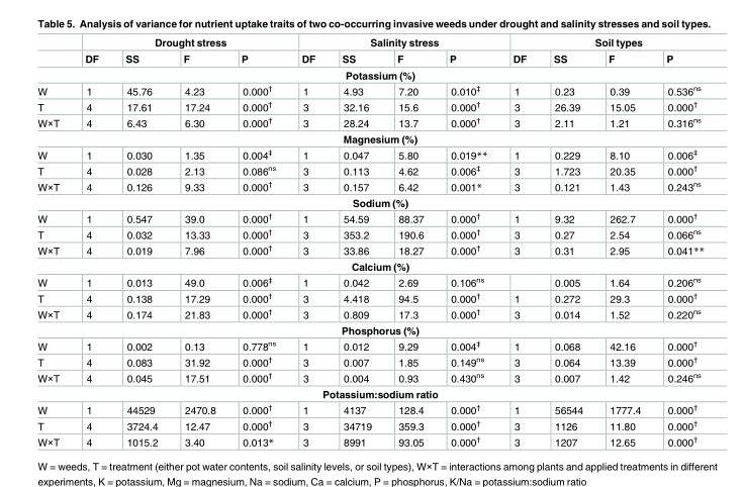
<table><thead><tr><td rowspan="2"></td><td colspan="4">Drought stress</td><td colspan="4">Salinity stress</td><td colspan="4">Soil types</td></tr><tr><td>DF</td><td>SS</td><td>F</td><td>P</td><td>DF</td><td>SS</td><td>F</td><td>P</td><td>DF</td><td>SS</td><td>F</td><td>P</td></tr></thead><tbody><tr><td colspan="13">Potassium (%)</td></tr><tr><td>W</td><td>1</td><td>45.76</td><td>4.23</td><td>0.000<sup>†</sup></td><td>1</td><td>4.93</td><td>7.20</td><td>0.010<sup>‡</sup></td><td>1</td><td>0.23</td><td>0.39</td><td>0.536<sup>ns</sup></td></tr><tr><td>T</td><td>4</td><td>17.61</td><td>17.24</td><td>0.000<sup>†</sup></td><td>3</td><td>32.16</td><td>15.6</td><td>0.000<sup>†</sup></td><td>3</td><td>26.39</td><td>15.05</td><td>0.000<sup>†</sup></td></tr><tr><td>W×T</td><td>4</td><td>6.43</td><td>6.30</td><td>0.000<sup>†</sup></td><td>3</td><td>28.24</td><td>13.7</td><td>0.000<sup>†</sup></td><td>3</td><td>2.11</td><td>1.21</td><td>0.316<sup>ns</sup></td></tr><tr><td colspan="13">Magnesium (%)</td></tr><tr><td>W</td><td>1</td><td>0.030</td><td>1.35</td><td>0.004<sup>‡</sup></td><td>1</td><td>0.047</td><td>5.80</td><td>0.019**</td><td>1</td><td>0.229</td><td>8.10</td><td>0.006<sup>‡</sup></td></tr><tr><td>T</td><td>4</td><td>0.028</td><td>2.13</td><td>0.086<sup>ns</sup></td><td>3</td><td>0.113</td><td>4.62</td><td>0.006<sup>‡</sup></td><td>3</td><td>1.723</td><td>20.35</td><td>0.000<sup>†</sup></td></tr><tr><td>W×T</td><td>4</td><td>0.126</td><td>9.33</td><td>0.000<sup>†</sup></td><td>3</td><td>0.157</td><td>6.42</td><td>0.001*</td><td>3</td><td>0.121</td><td>1.43</td><td>0.243<sup>ns</sup></td></tr><tr><td colspan="13">Sodium (%)</td></tr><tr><td>W</td><td>1</td><td>0.547</td><td>39.0</td><td>0.000<sup>†</sup></td><td>1</td><td>54.59</td><td>88.37</td><td>0.000<sup>†</sup></td><td>1</td><td>9.32</td><td>262.7</td><td>0.000<sup>†</sup></td></tr><tr><td>T</td><td>4</td><td>0.032</td><td>13.33</td><td>0.000<sup>†</sup></td><td>3</td><td>353.2</td><td>190.6</td><td>0.000<sup>†</sup></td><td>3</td><td>0.27</td><td>2.54</td><td>0.066<sup>ns</sup></td></tr><tr><td>W×T</td><td>4</td><td>0.019</td><td>7.96</td><td>0.000<sup>†</sup></td><td>3</td><td>33.86</td><td>18.27</td><td>0.000<sup>†</sup></td><td>3</td><td>0.31</td><td>2.95</td><td>0.041**</td></tr><tr><td colspan="13">Calcium (%)</td></tr><tr><td>W</td><td>1</td><td>0.013</td><td>49.0</td><td>0.006<sup>‡</sup></td><td>1</td><td>0.042</td><td>2.69</td><td>0.106<sup>ns</sup></td><td></td><td>0.005</td><td>1.64</td><td>0.206<sup>ns</sup></td></tr><tr><td>T</td><td>4</td><td>0.138</td><td>17.29</td><td>0.000<sup>†</sup></td><td>3</td><td>4.418</td><td>94.5</td><td>0.000<sup>†</sup></td><td>1</td><td>0.272</td><td>29.3</td><td>0.000<sup>†</sup></td></tr><tr><td>W×T</td><td>4</td><td>0.174</td><td>21.83</td><td>0.000<sup>†</sup></td><td>3</td><td>0.809</td><td>17.3</td><td>0.000<sup>†</sup></td><td>3</td><td>0.014</td><td>1.52</td><td>0.220<sup>ns</sup></td></tr><tr><td colspan="13">Phosphorus (%)</td></tr><tr><td>W</td><td>1</td><td>0.002</td><td>0.13</td><td>0.778<sup>ns</sup></td><td>1</td><td>0.012</td><td>9.29</td><td>0.004<sup>‡</sup></td><td>1</td><td>0.068</td><td>42.16</td><td>0.000<sup>†</sup></td></tr><tr><td>T</td><td>4</td><td>0.083</td><td>31.92</td><td>0.000<sup>†</sup></td><td>3</td><td>0.007</td><td>1.85</td><td>0.149<sup>ns</sup></td><td>3</td><td>0.064</td><td>13.39</td><td>0.000<sup>†</sup></td></tr><tr><td>W×T</td><td>4</td><td>0.045</td><td>17.51</td><td>0.000<sup>†</sup></td><td>3</td><td>0.004</td><td>0.93</td><td>0.430<sup>ns</sup></td><td>3</td><td>0.007</td><td>1.42</td><td>0.246<sup>ns</sup></td></tr><tr><td colspan="13">Potassium:sodium ratio</td></tr><tr><td>W</td><td>1</td><td>44529</td><td>2470.8</td><td>0.000<sup>†</sup></td><td>1</td><td>4137</td><td>128.4</td><td>0.000<sup>†</sup></td><td>1</td><td>56544</td><td>1777.4</td><td>0.000<sup>†</sup></td></tr><tr><td>T</td><td>4</td><td>3724.4</td><td>12.47</td><td>0.000<sup>†</sup></td><td>3</td><td>34719</td><td>359.3</td><td>0.000<sup>†</sup></td><td>3</td><td>1126</td><td>11.80</td><td>0.000<sup>†</sup></td></tr><tr><td>W×T</td><td>4</td><td>1015.2</td><td>3.40</td><td>0.013*</td><td>3</td><td>8991</td><td>93.05</td><td>0.000<sup>†</sup></td><td>3</td><td>1207</td><td>12.65</td><td>0.000<sup>†</sup></td></tr></tbody></table>